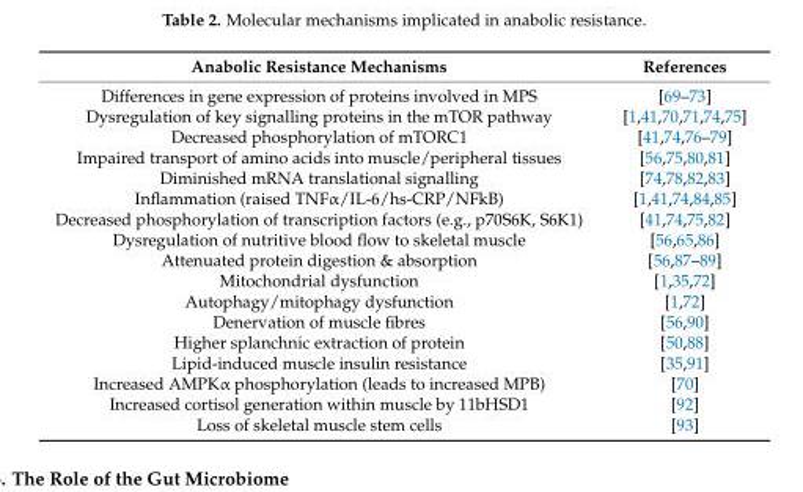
<table><thead><tr><td>Anabolic Resistance Mechanisms</td><td>References</td></tr></thead><tbody><tr><td>Differences in gene expression of proteins involved in MPS</td><td>[69–73]</td></tr><tr><td>Dysregulation of key signalling proteins in the mTOR pathway</td><td>[1,41,70,71,74,75]</td></tr><tr><td>Decreased phosphorylation of mTORC1</td><td>[41,74,76–79]</td></tr><tr><td>Impaired transport of amino acids into muscle/peripheral tissues</td><td>[56,75,80,81]</td></tr><tr><td>Diminished mRNA translational signalling</td><td>[74,78,82,83]</td></tr><tr><td>Inflammation (raised TNFα/IL-6/hs-CRP/NFkB)</td><td>[1,41,74,84,85]</td></tr><tr><td>Decreased phosphorylation of transcription factors (e.g., p70S6K, S6K1)</td><td>[41,74,75,82]</td></tr><tr><td>Dysregulation of nutritive blood flow to skeletal muscle</td><td>[56,65,86]</td></tr><tr><td>Attenuated protein digestion &amp; absorption</td><td>[56,87–89]</td></tr><tr><td>Mitochondrial dysfunction</td><td>[1,35,72]</td></tr><tr><td>Autophagy/mitophagy dysfunction</td><td>[1,72]</td></tr><tr><td>Denervation of muscle fibres</td><td>[56,90]</td></tr><tr><td>Higher splanchnic extraction of protein</td><td>[50,88]</td></tr><tr><td>Lipid-induced muscle insulin resistance</td><td>[35,91]</td></tr><tr><td>Increased AMPKα phosphorylation (leads to increased MPB)</td><td>[70]</td></tr><tr><td>Increased cortisol generation within muscle by 11bHSD1</td><td>[92]</td></tr><tr><td>Loss of skeletal muscle stem cells</td><td>[93]</td></tr></tbody></table>